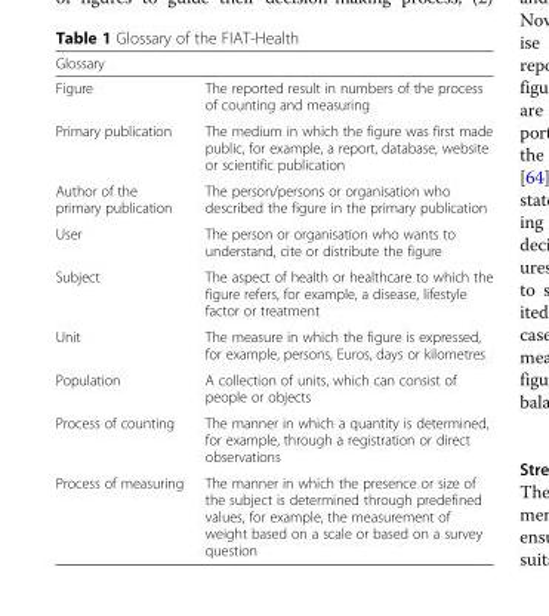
<table><thead><tr><td colspan="2">Glossary</td></tr><tr><td>Figure</td><td>The reported result in numbers of the process of counting and measuring</td></tr></thead><tbody><tr><td>Primary publication</td><td>The medium in which the figure was first made public, for example, a report, database, website or scientific publication</td></tr><tr><td>Author of the primary publication</td><td>The person/persons or organisation who described the figure in the primary publication</td></tr><tr><td>User</td><td>The person or organisation who wants to understand, cite or distribute the figure</td></tr><tr><td>Subject</td><td>The aspect of health or healthcare to which the figure refers, for example, a disease, lifestyle factor or treatment</td></tr><tr><td>Unit</td><td>The measure in which the figure is expressed, for example, persons, Euros, days or kilometres</td></tr><tr><td>Population</td><td>A collection of units, which can consist of people or objects</td></tr><tr><td>Process of counting</td><td>The manner in which a quantity is determined, for example, through a registration or direct observations</td></tr><tr><td>Process of measuring</td><td>The manner in which the presence or size of the subject is determined through predefined values, for example, the measurement of weight based on a scale or based on a survey question</td></tr></tbody></table>